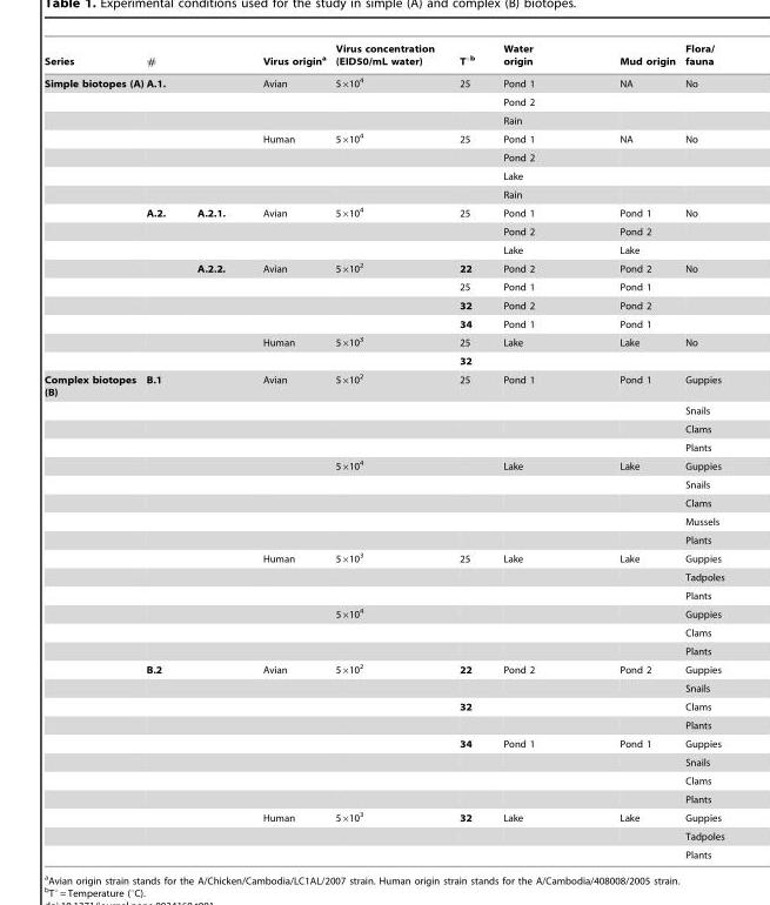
<table><thead><tr><td>Series</td><td colspan="2">#</td><td>Virus origin<sup>a</sup></td><td>Virus concentration (EID50/mL water)</td><td>T°<sup>b</sup></td><td>Water origin</td><td>Mud origin</td><td>Flora/ fauna</td></tr></thead><tbody><tr><td rowspan="16">Simple biotopes (A)</td><td colspan="2">A.1.</td><td>Avian</td><td>5×10<sup>4</sup></td><td>25</td><td>Pond 1</td><td>NA</td><td>No</td></tr><tr><td colspan="2"></td><td></td><td></td><td></td><td>Pond 2</td><td></td><td></td></tr><tr><td colspan="2"></td><td></td><td></td><td></td><td>Rain</td><td></td><td></td></tr><tr><td colspan="2"></td><td>Human</td><td>5×10<sup>4</sup></td><td>25</td><td>Pond 1</td><td>NA</td><td>No</td></tr><tr><td colspan="2"></td><td></td><td></td><td></td><td>Pond 2</td><td></td><td></td></tr><tr><td colspan="2"></td><td></td><td></td><td></td><td>Lake</td><td></td><td></td></tr><tr><td colspan="2"></td><td></td><td></td><td></td><td>Rain</td><td></td><td></td></tr><tr><td>A.2.</td><td>A.2.1.</td><td>Avian</td><td>5×10<sup>4</sup></td><td>25</td><td>Pond 1</td><td>Pond 1</td><td>No</td></tr><tr><td></td><td></td><td></td><td></td><td></td><td>Pond 2</td><td>Pond 2</td><td></td></tr><tr><td></td><td></td><td></td><td></td><td></td><td>Lake</td><td>Lake</td><td></td></tr><tr><td></td><td>A.2.2.</td><td>Avian</td><td>5×10<sup>2</sup></td><td>22</td><td>Pond 2</td><td>Pond 2</td><td>No</td></tr><tr><td></td><td></td><td></td><td></td><td>25</td><td>Pond 1</td><td>Pond 1</td><td></td></tr><tr><td></td><td></td><td></td><td></td><td>32</td><td>Pond 2</td><td>Pond 2</td><td></td></tr><tr><td></td><td></td><td></td><td></td><td>34</td><td>Pond 1</td><td>Pond 1</td><td></td></tr><tr><td></td><td></td><td>Human</td><td>5×10<sup>3</sup></td><td>25</td><td>Lake</td><td>Lake</td><td>No</td></tr><tr><td></td><td></td><td></td><td></td><td>32</td><td></td><td></td><td></td></tr><tr><td rowspan="26">Complex biotopes (B)</td><td colspan="2">B.1</td><td>Avian</td><td>5×10<sup>2</sup></td><td>25</td><td>Pond 1</td><td>Pond 1</td><td>Guppies</td></tr><tr><td colspan="2"></td><td></td><td></td><td></td><td></td><td></td><td>Snails</td></tr><tr><td colspan="2"></td><td></td><td></td><td></td><td></td><td></td><td>Clams</td></tr><tr><td colspan="2"></td><td></td><td></td><td></td><td></td><td></td><td>Plants</td></tr><tr><td colspan="2"></td><td></td><td>5×10<sup>4</sup></td><td></td><td>Lake</td><td>Lake</td><td>Guppies</td></tr><tr><td colspan="2"></td><td></td><td></td><td></td><td></td><td></td><td>Snails</td></tr><tr><td colspan="2"></td><td></td><td></td><td></td><td></td><td></td><td>Clams</td></tr><tr><td colspan="2"></td><td></td><td></td><td></td><td></td><td></td><td>Mussels</td></tr><tr><td colspan="2"></td><td></td><td></td><td></td><td></td><td></td><td>Plants</td></tr><tr><td colspan="2"></td><td>Human</td><td>5×10<sup>3</sup></td><td>25</td><td>Lake</td><td>Lake</td><td>Guppies</td></tr><tr><td colspan="2"></td><td></td><td></td><td></td><td></td><td></td><td>Tadpoles</td></tr><tr><td colspan="2"></td><td></td><td></td><td></td><td></td><td></td><td>Plants</td></tr><tr><td colspan="2"></td><td></td><td>5×10<sup>4</sup></td><td></td><td></td><td></td><td>Guppies</td></tr><tr><td colspan="2"></td><td></td><td></td><td></td><td></td><td></td><td>Clams</td></tr><tr><td colspan="2"></td><td></td><td></td><td></td><td></td><td></td><td>Plants</td></tr><tr><td colspan="2">B.2</td><td>Avian</td><td>5×10<sup>2</sup></td><td>22</td><td>Pond 2</td><td>Pond 2</td><td>Guppies</td></tr><tr><td colspan="2"></td><td></td><td></td><td></td><td></td><td></td><td>Snails</td></tr><tr><td colspan="2"></td><td></td><td></td><td>32</td><td></td><td></td><td>Clams</td></tr><tr><td colspan="2"></td><td></td><td></td><td></td><td></td><td></td><td>Plants</td></tr><tr><td colspan="2"></td><td></td><td></td><td>34</td><td>Pond 1</td><td>Pond 1</td><td>Guppies</td></tr><tr><td colspan="2"></td><td></td><td></td><td></td><td></td><td></td><td>Snails</td></tr><tr><td colspan="2"></td><td></td><td></td><td></td><td></td><td></td><td>Clams</td></tr><tr><td colspan="2"></td><td></td><td></td><td></td><td></td><td></td><td>Plants</td></tr><tr><td colspan="2"></td><td>Human</td><td>5×10<sup>3</sup></td><td>32</td><td>Lake</td><td>Lake</td><td>Guppies</td></tr><tr><td colspan="2"></td><td></td><td></td><td></td><td></td><td></td><td>Tadpoles</td></tr><tr><td colspan="2"></td><td></td><td></td><td></td><td></td><td></td><td>Plants</td></tr></tbody></table>